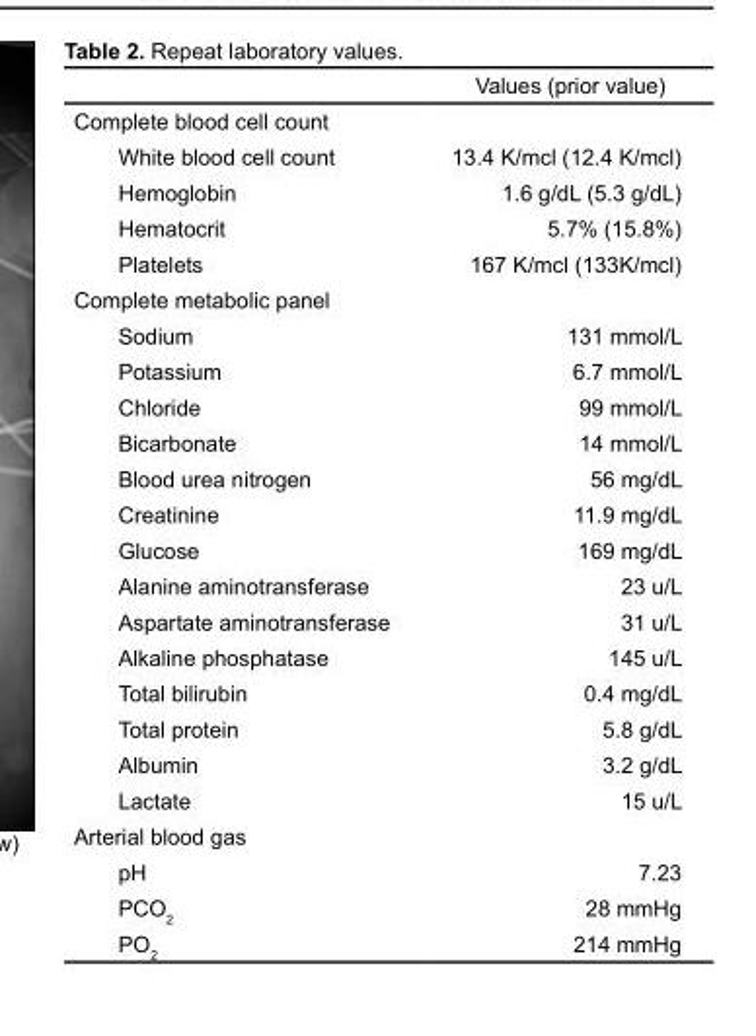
<table><thead><tr><td></td><td>Values (prior value)</td></tr></thead><tbody><tr><td colspan="2">Complete blood cell count</td></tr><tr><td>White blood cell count</td><td>13.4 K/mcl (12.4 K/mcl)</td></tr><tr><td>Hemoglobin</td><td>1.6 g/dL (5.3 g/dL)</td></tr><tr><td>Hematocrit</td><td>5.7% (15.8%)</td></tr><tr><td>Platelets</td><td>167 K/mcl (133K/mcl)</td></tr><tr><td colspan="2">Complete metabolic panel</td></tr><tr><td>Sodium</td><td>131 mmol/L</td></tr><tr><td>Potassium</td><td>6.7 mmol/L</td></tr><tr><td>Chloride</td><td>99 mmol/L</td></tr><tr><td>Bicarbonate</td><td>14 mmol/L</td></tr><tr><td>Blood urea nitrogen</td><td>56 mg/dL</td></tr><tr><td>Creatinine</td><td>11.9 mg/dL</td></tr><tr><td>Glucose</td><td>169 mg/dL</td></tr><tr><td>Alanine aminotransferase</td><td>23 u/L</td></tr><tr><td>Aspartate aminotransferase</td><td>31 u/L</td></tr><tr><td>Alkaline phosphatase</td><td>145 u/L</td></tr><tr><td>Total bilirubin</td><td>0.4 mg/dL</td></tr><tr><td>Total protein</td><td>5.8 g/dL</td></tr><tr><td>Albumin</td><td>3.2 g/dL</td></tr><tr><td>Lactate</td><td>15 u/L</td></tr><tr><td colspan="2">Arterial blood gas</td></tr><tr><td>pH</td><td>7.23</td></tr><tr><td>PCO<sub>2</sub></td><td>28 mmHg</td></tr><tr><td>PO<sub>2</sub></td><td>214 mmHg</td></tr></tbody></table>